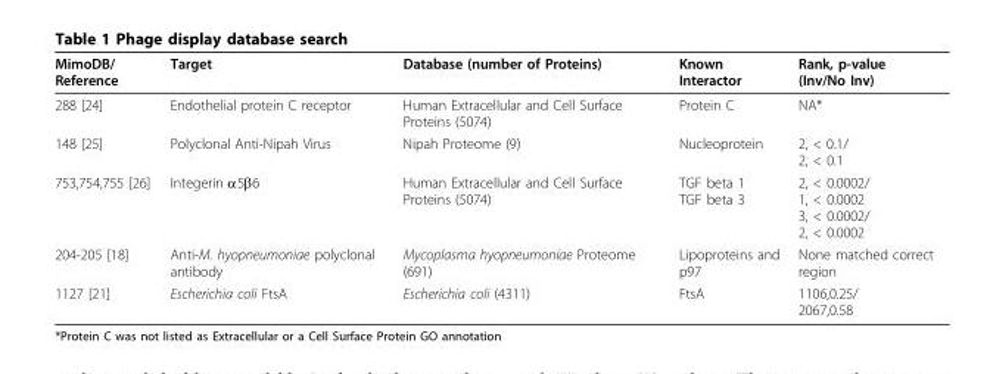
<table><thead><tr><td>MimoDB/ Reference</td><td>Target</td><td>Database (number of Proteins)</td><td>Known Interactor</td><td>Rank, p-value (Inv/No Inv)</td></tr></thead><tbody><tr><td>288 [24]</td><td>Endothelial protein C receptor</td><td>Human Extracellular and Cell Surface Proteins (5074)</td><td>Protein C</td><td>NA*</td></tr><tr><td>148 [25]</td><td>Polyclonal Anti-Nipah Virus</td><td>Nipah Proteome (9)</td><td>Nucleoprotein</td><td>2, &lt; 0.1/ 2, &lt; 0.1</td></tr><tr><td>753,754,755 [26]</td><td>Integerin α5β6</td><td>Human Extracellular and Cell Surface Proteins (5074)</td><td>TGF beta 1 TGF beta 3</td><td>2, &lt; 0.0002/ 1, &lt; 0.0002 3, &lt; 0.0002/ 2, &lt; 0.0002</td></tr><tr><td>204-205 [18]</td><td>Anti-M. hyopneumoniae polyclonal antibody</td><td>Mycoplasma hyopneumoniae Proteome (691)</td><td>Lipoproteins and p97</td><td>None matched correct region</td></tr><tr><td>1127 [21]</td><td>Escherichia coli FtsA</td><td>Escherichia coli (4311)</td><td>FtsA</td><td>1106,0.25/ 2067,0.58</td></tr></tbody></table>